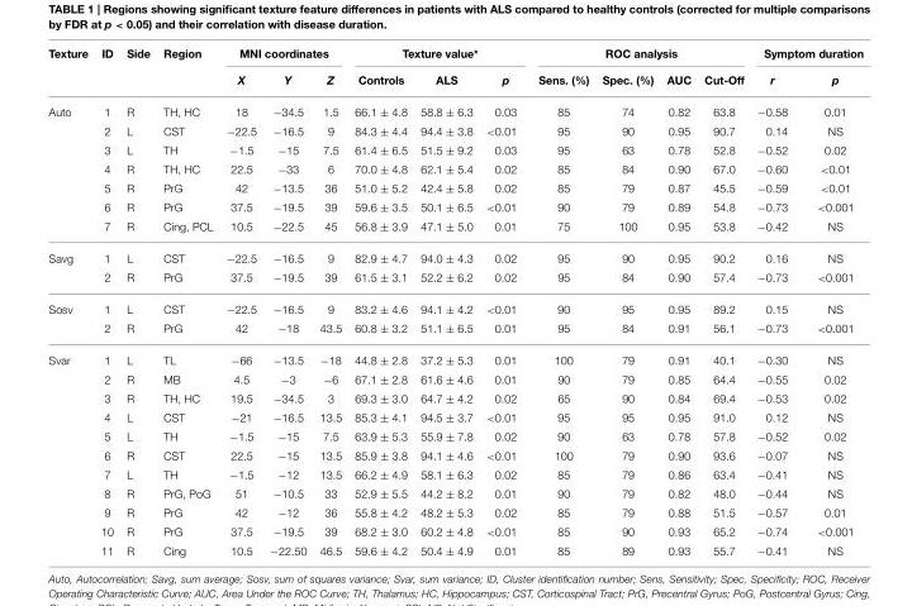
<table><thead><tr><td rowspan="2">Texture</td><td rowspan="2">ID</td><td rowspan="2">Side</td><td rowspan="2">Region</td><td colspan="3">MNI coordinates</td><td colspan="3">Texture value*</td><td colspan="4">ROC analysis</td><td colspan="2">Symptom duration</td></tr><tr><td>X</td><td>Y</td><td>Z</td><td>Controls</td><td>ALS</td><td>p</td><td>Sens. (%)</td><td>Spec. (%)</td><td>AUC</td><td>Cut-Off</td><td>r</td><td>p</td></tr></thead><tbody><tr><td rowspan="7">Auto</td><td>1</td><td>R</td><td>TH, HC</td><td>18</td><td>−34.5</td><td>1.5</td><td>66.1 ± 4.8</td><td>58.8 ± 6.3</td><td>0.03</td><td>85</td><td>74</td><td>0.82</td><td>63.8</td><td>−0.58</td><td>0.01</td></tr><tr><td>2</td><td>L</td><td>CST</td><td>−22.5</td><td>−16.5</td><td>9</td><td>84.3 ± 4.4</td><td>94.4 ± 3.8</td><td>&lt;0.01</td><td>95</td><td>90</td><td>0.95</td><td>90.7</td><td>0.14</td><td>NS</td></tr><tr><td>3</td><td>L</td><td>TH</td><td>−1.5</td><td>−15</td><td>7.5</td><td>61.4 ± 6.5</td><td>51.5 ± 9.2</td><td>0.03</td><td>95</td><td>63</td><td>0.78</td><td>52.8</td><td>−0.52</td><td>0.02</td></tr><tr><td>4</td><td>R</td><td>TH, HC</td><td>22.5</td><td>−33</td><td>6</td><td>70.0 ± 4.8</td><td>62.1 ± 5.4</td><td>0.02</td><td>85</td><td>84</td><td>0.90</td><td>67.0</td><td>−0.60</td><td>&lt;0.01</td></tr><tr><td>5</td><td>R</td><td>PrG</td><td>42</td><td>−13.5</td><td>36</td><td>51.0 ± 5.2</td><td>42.4 ± 5.8</td><td>0.02</td><td>85</td><td>79</td><td>0.87</td><td>45.5</td><td>−0.59</td><td>&lt;0.01</td></tr><tr><td>6</td><td>R</td><td>PrG</td><td>37.5</td><td>−19.5</td><td>39</td><td>59.6 ± 3.5</td><td>50.1 ± 6.5</td><td>&lt;0.01</td><td>90</td><td>79</td><td>0.89</td><td>54.8</td><td>−0.73</td><td>&lt;0.001</td></tr><tr><td>7</td><td>R</td><td>Cing, PCL</td><td>10.5</td><td>−22.5</td><td>45</td><td>56.8 ± 3.9</td><td>47.1 ± 5.0</td><td>0.01</td><td>75</td><td>100</td><td>0.95</td><td>53.8</td><td>−0.42</td><td>NS</td></tr><tr><td rowspan="2">Savg</td><td>1</td><td>L</td><td>CST</td><td>−22.5</td><td>−16.5</td><td>9</td><td>82.9 ± 4.7</td><td>94.0 ± 4.3</td><td>0.02</td><td>95</td><td>90</td><td>0.95</td><td>90.2</td><td>0.16</td><td>NS</td></tr><tr><td>2</td><td>R</td><td>PrG</td><td>37.5</td><td>−19.5</td><td>39</td><td>61.5 ± 3.1</td><td>52.2 ± 6.2</td><td>0.02</td><td>95</td><td>84</td><td>0.90</td><td>57.4</td><td>−0.73</td><td>&lt;0.001</td></tr><tr><td rowspan="2">Sosv</td><td>1</td><td>L</td><td>CST</td><td>−22.5</td><td>−16.5</td><td>9</td><td>83.2 ± 4.6</td><td>94.1 ± 4.2</td><td>&lt;0.01</td><td>90</td><td>95</td><td>0.95</td><td>89.2</td><td>0.15</td><td>NS</td></tr><tr><td>2</td><td>R</td><td>PrG</td><td>42</td><td>−18</td><td>43.5</td><td>60.8 ± 3.2</td><td>51.1 ± 6.5</td><td>0.01</td><td>95</td><td>84</td><td>0.91</td><td>56.1</td><td>−0.73</td><td>&lt;0.001</td></tr><tr><td rowspan="11">Svar</td><td>1</td><td>L</td><td>TL</td><td>−66</td><td>−13.5</td><td>−18</td><td>44.8 ± 2.8</td><td>37.2 ± 5.3</td><td>0.01</td><td>100</td><td>79</td><td>0.91</td><td>40.1</td><td>−0.30</td><td>NS</td></tr><tr><td>2</td><td>R</td><td>MB</td><td>4.5</td><td>−3</td><td>−6</td><td>67.1 ± 2.8</td><td>61.6 ± 4.6</td><td>0.01</td><td>90</td><td>79</td><td>0.85</td><td>64.4</td><td>−0.55</td><td>0.02</td></tr><tr><td>3</td><td>R</td><td>TH, HC</td><td>19.5</td><td>−34.5</td><td>3</td><td>69.3 ± 3.0</td><td>64.7 ± 4.2</td><td>0.02</td><td>65</td><td>90</td><td>0.84</td><td>69.4</td><td>−0.53</td><td>0.02</td></tr><tr><td>4</td><td>L</td><td>CST</td><td>−21</td><td>−16.5</td><td>13.5</td><td>85.3 ± 4.1</td><td>94.5 ± 3.7</td><td>&lt;0.01</td><td>95</td><td>95</td><td>0.95</td><td>91.0</td><td>0.12</td><td>NS</td></tr><tr><td>5</td><td>L</td><td>TH</td><td>−1.5</td><td>−15</td><td>7.5</td><td>63.9 ± 5.3</td><td>55.9 ± 7.8</td><td>0.02</td><td>90</td><td>63</td><td>0.78</td><td>57.8</td><td>−0.52</td><td>0.02</td></tr><tr><td>6</td><td>R</td><td>CST</td><td>22.5</td><td>−15</td><td>13.5</td><td>85.9 ± 3.8</td><td>94.1 ± 4.6</td><td>&lt;0.01</td><td>100</td><td>79</td><td>0.90</td><td>93.6</td><td>−0.07</td><td>NS</td></tr><tr><td>7</td><td>L</td><td>TH</td><td>−1.5</td><td>−12</td><td>13.5</td><td>66.2 ± 4.9</td><td>58.1 ± 6.3</td><td>0.02</td><td>85</td><td>79</td><td>0.86</td><td>63.4</td><td>−0.41</td><td>NS</td></tr><tr><td>8</td><td>R</td><td>PrG, PoG</td><td>51</td><td>−10.5</td><td>33</td><td>52.9 ± 5.5</td><td>44.2 ± 8.2</td><td>0.01</td><td>90</td><td>79</td><td>0.82</td><td>48.0</td><td>−0.44</td><td>NS</td></tr><tr><td>9</td><td>R</td><td>PrG</td><td>42</td><td>−12</td><td>36</td><td>55.8 ± 4.2</td><td>48.2 ± 5.3</td><td>0.02</td><td>85</td><td>79</td><td>0.88</td><td>51.5</td><td>−0.57</td><td>0.01</td></tr><tr><td>10</td><td>R</td><td>PrG</td><td>37.5</td><td>−19.5</td><td>39</td><td>68.2 ± 3.0</td><td>60.2 ± 4.8</td><td>&lt;0.01</td><td>85</td><td>90</td><td>0.93</td><td>65.2</td><td>−0.74</td><td>&lt;0.001</td></tr><tr><td>11</td><td>R</td><td>Cing</td><td>10.5</td><td>−22.50</td><td>46.5</td><td>59.6 ± 4.2</td><td>50.4 ± 4.9</td><td>0.01</td><td>85</td><td>89</td><td>0.93</td><td>55.7</td><td>−0.41</td><td>NS</td></tr></tbody></table>